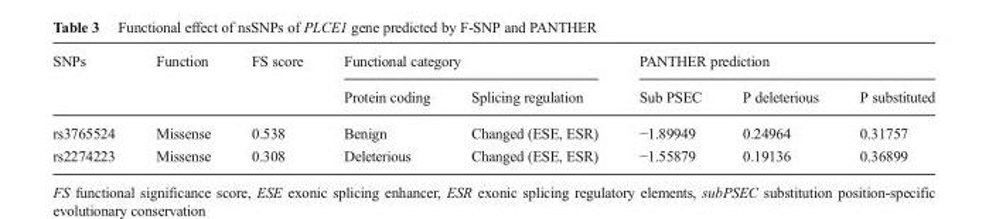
<table><thead><tr><td rowspan="2">SNPs</td><td rowspan="2">Function</td><td rowspan="2">FS score</td><td colspan="2">Functional category</td><td colspan="3">PANTHER prediction</td></tr><tr><td>Protein coding</td><td>Splicing regulation</td><td>Sub PSEC</td><td>P deleterious</td><td>P substituted</td></tr></thead><tbody><tr><td>rs3765524</td><td>Missense</td><td>0.538</td><td>Benign</td><td>Changed (ESE, ESR)</td><td>−1.89949</td><td>0.24964</td><td>0.31757</td></tr><tr><td>rs2274223</td><td>Missense</td><td>0.308</td><td>Deleterious</td><td>Changed (ESE, ESR)</td><td>−1.55879</td><td>0.19136</td><td>0.36899</td></tr></tbody></table>